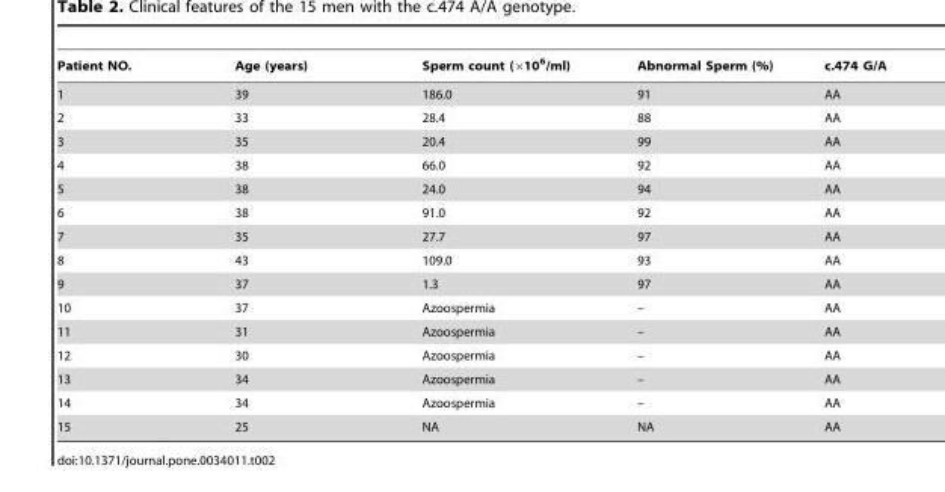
<table><thead><tr><td>Patient NO.</td><td>Age (years)</td><td>Sperm count (×10<sup>6</sup>/ml)</td><td>Abnormal Sperm (%)</td><td>c.474 G/A</td></tr></thead><tbody><tr><td>1</td><td>39</td><td>186.0</td><td>91</td><td>AA</td></tr><tr><td>2</td><td>33</td><td>28.4</td><td>88</td><td>AA</td></tr><tr><td>3</td><td>35</td><td>20.4</td><td>99</td><td>AA</td></tr><tr><td>4</td><td>38</td><td>66.0</td><td>92</td><td>AA</td></tr><tr><td>5</td><td>38</td><td>24.0</td><td>94</td><td>AA</td></tr><tr><td>6</td><td>38</td><td>91.0</td><td>92</td><td>AA</td></tr><tr><td>7</td><td>35</td><td>27.7</td><td>97</td><td>AA</td></tr><tr><td>8</td><td>43</td><td>109.0</td><td>93</td><td>AA</td></tr><tr><td>9</td><td>37</td><td>1.3</td><td>97</td><td>AA</td></tr><tr><td>10</td><td>37</td><td>Azoospermia</td><td>–</td><td>AA</td></tr><tr><td>11</td><td>31</td><td>Azoospermia</td><td>–</td><td>AA</td></tr><tr><td>12</td><td>30</td><td>Azoospermia</td><td>–</td><td>AA</td></tr><tr><td>13</td><td>34</td><td>Azoospermia</td><td>–</td><td>AA</td></tr><tr><td>14</td><td>34</td><td>Azoospermia</td><td>–</td><td>AA</td></tr><tr><td>15</td><td>25</td><td>NA</td><td>NA</td><td>AA</td></tr></tbody></table>